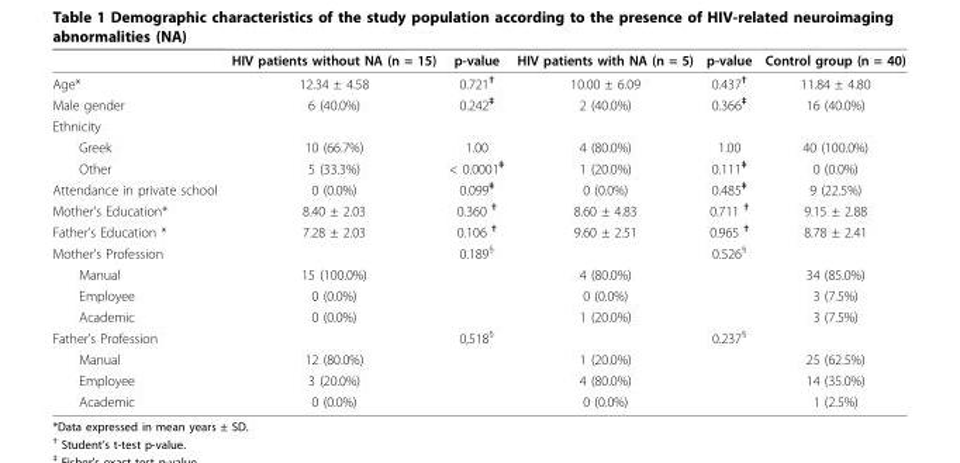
<table><thead><tr><td></td><td>HIV patients without NA (n = 15)</td><td>p-value</td><td>HIV patients with NA (n = 5)</td><td>p-value</td><td>Control group (n = 40)</td></tr></thead><tbody><tr><td>Age*</td><td>12.34 ± 4.58</td><td>0.721<sup>†</sup></td><td>10.00 ± 6.09</td><td>0.437<sup>†</sup></td><td>11.84 ± 4.80</td></tr><tr><td>Male gender</td><td>6 (40.0%)</td><td>0.242<sup>‡</sup></td><td>2 (40.0%)</td><td>0.366<sup>‡</sup></td><td>16 (40.0%)</td></tr><tr><td colspan="6">Ethnicity</td></tr><tr><td>Greek</td><td>10 (66.7%)</td><td>1.00</td><td>4 (80.0%)</td><td>1.00</td><td>40 (100.0%)</td></tr><tr><td>Other</td><td>5 (33.3%)</td><td>&lt; 0.0001<sup>‡</sup></td><td>1 (20.0%)</td><td>0.111<sup>‡</sup></td><td>0 (0.0%)</td></tr><tr><td>Attendance in private school</td><td>0 (0.0%)</td><td>0.099<sup>‡</sup></td><td>0 (0.0%)</td><td>0.485<sup>‡</sup></td><td>9 (22.5%)</td></tr><tr><td>Mother’s Education*</td><td>8.40 ± 2.03</td><td>0.360 <sup>†</sup></td><td>8.60 ± 4.83</td><td>0.711 <sup>†</sup></td><td>9.15 ± 2.88</td></tr><tr><td>Father’s Education *</td><td>7.28 ± 2.03</td><td>0.106 <sup>†</sup></td><td>9.60 ± 2.51</td><td>0.965 <sup>†</sup></td><td>8.78 ± 2.41</td></tr><tr><td>Mother’s Profession</td><td></td><td>0.189<sup>§</sup></td><td></td><td>0.526<sup>§</sup></td><td></td></tr><tr><td>Manual</td><td>15 (100.0%)</td><td></td><td>4 (80.0%)</td><td></td><td>34 (85.0%)</td></tr><tr><td>Employee</td><td>0 (0.0%)</td><td></td><td>0 (0.0%)</td><td></td><td>3 (7.5%)</td></tr><tr><td>Academic</td><td>0 (0.0%)</td><td></td><td>1 (20.0%)</td><td></td><td>3 (7.5%)</td></tr><tr><td>Father’s Profession</td><td></td><td>0,518<sup>§</sup></td><td></td><td>0.237<sup>§</sup></td><td></td></tr><tr><td>Manual</td><td>12 (80.0%)</td><td></td><td>1 (20.0%)</td><td></td><td>25 (62.5%)</td></tr><tr><td>Employee</td><td>3 (20.0%)</td><td></td><td>4 (80.0%)</td><td></td><td>14 (35.0%)</td></tr><tr><td>Academic</td><td>0 (0.0%)</td><td></td><td>0 (0.0%)</td><td></td><td>1 (2.5%)</td></tr></tbody></table>